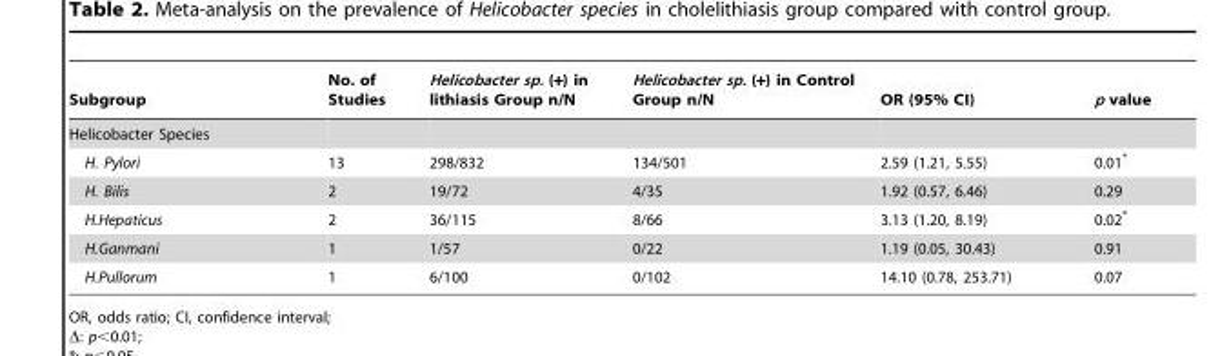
<table><thead><tr><td>Subgroup</td><td>No. of Studies</td><td>Helicobacter sp. (+) in lithiasis Group n/N</td><td>Helicobacter sp. (+) in Control Group n/N</td><td>OR (95% CI)</td><td>p value</td></tr></thead><tbody><tr><td colspan="6">Helicobacter Species</td></tr><tr><td>H. Pylori</td><td>13</td><td>298/832</td><td>134/501</td><td>2.59 (1.21, 5.55)</td><td>0.01*</td></tr><tr><td>H. Bilis</td><td>2</td><td>19/72</td><td>4/35</td><td>1.92 (0.57, 6.46)</td><td>0.29</td></tr><tr><td>H.Hepaticus</td><td>2</td><td>36/115</td><td>8/66</td><td>3.13 (1.20, 8.19)</td><td>0.02*</td></tr><tr><td>H.Ganmani</td><td>1</td><td>1/57</td><td>0/22</td><td>1.19 (0.05, 30.43)</td><td>0.91</td></tr><tr><td>H.Pullorum</td><td>1</td><td>6/100</td><td>0/102</td><td>14.10 (0.78, 253.71)</td><td>0.07</td></tr></tbody></table>